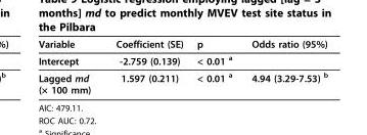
<table><thead><tr><td>Variable</td><td>Coefficient (SE)</td><td>p</td><td>Odds ratio (95%)</td></tr></thead><tbody><tr><td>Intercept</td><td>-2.759 (0.139)</td><td>&lt; 0.01 <sup>a</sup></td><td></td></tr><tr><td>Lagged md (× 100 mm)</td><td>1.597 (0.211)</td><td>&lt; 0.01 <sup>a</sup></td><td>4.94 (3.29-7.53) <sup>b</sup></td></tr></tbody></table>